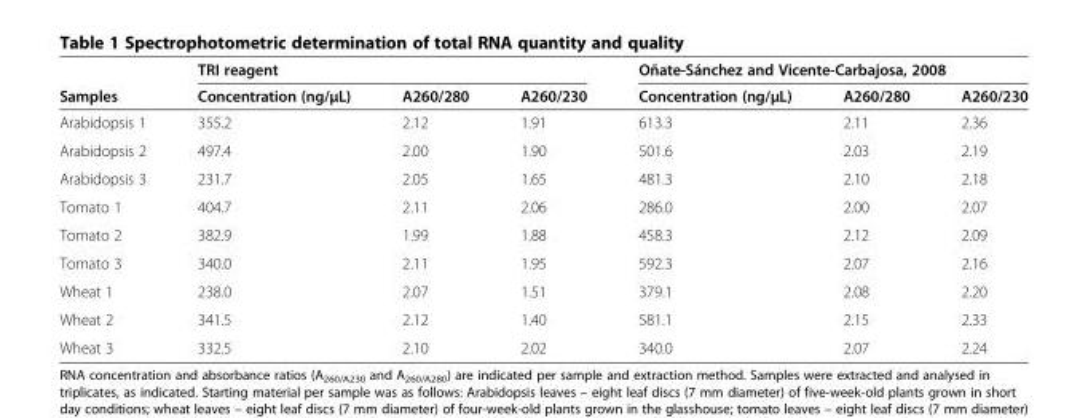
<table><thead><tr><td rowspan="2">Samples</td><td colspan="3">TRI reagent</td><td colspan="3">Oñate-Sánchez and Vicente-Carbajosa, 2008</td></tr><tr><td>Concentration (ng/μL)</td><td>A260/280</td><td>A260/230</td><td>Concentration (ng/μL)</td><td>A260/280</td><td>A260/230</td></tr></thead><tbody><tr><td>Arabidopsis 1</td><td>355.2</td><td>2.12</td><td>1.91</td><td>613.3</td><td>2.11</td><td>2.36</td></tr><tr><td>Arabidopsis 2</td><td>497.4</td><td>2.00</td><td>1.90</td><td>501.6</td><td>2.03</td><td>2.19</td></tr><tr><td>Arabidopsis 3</td><td>231.7</td><td>2.05</td><td>1.65</td><td>481.3</td><td>2.10</td><td>2.18</td></tr><tr><td>Tomato 1</td><td>404.7</td><td>2.11</td><td>2.06</td><td>286.0</td><td>2.00</td><td>2.07</td></tr><tr><td>Tomato 2</td><td>382.9</td><td>1.99</td><td>1.88</td><td>458.3</td><td>2.12</td><td>2.09</td></tr><tr><td>Tomato 3</td><td>340.0</td><td>2.11</td><td>1.95</td><td>592.3</td><td>2.07</td><td>2.16</td></tr><tr><td>Wheat 1</td><td>238.0</td><td>2.07</td><td>1.51</td><td>379.1</td><td>2.08</td><td>2.20</td></tr><tr><td>Wheat 2</td><td>341.5</td><td>2.12</td><td>1.40</td><td>581.1</td><td>2.15</td><td>2.33</td></tr><tr><td>Wheat 3</td><td>332.5</td><td>2.10</td><td>2.02</td><td>340.0</td><td>2.07</td><td>2.24</td></tr></tbody></table>